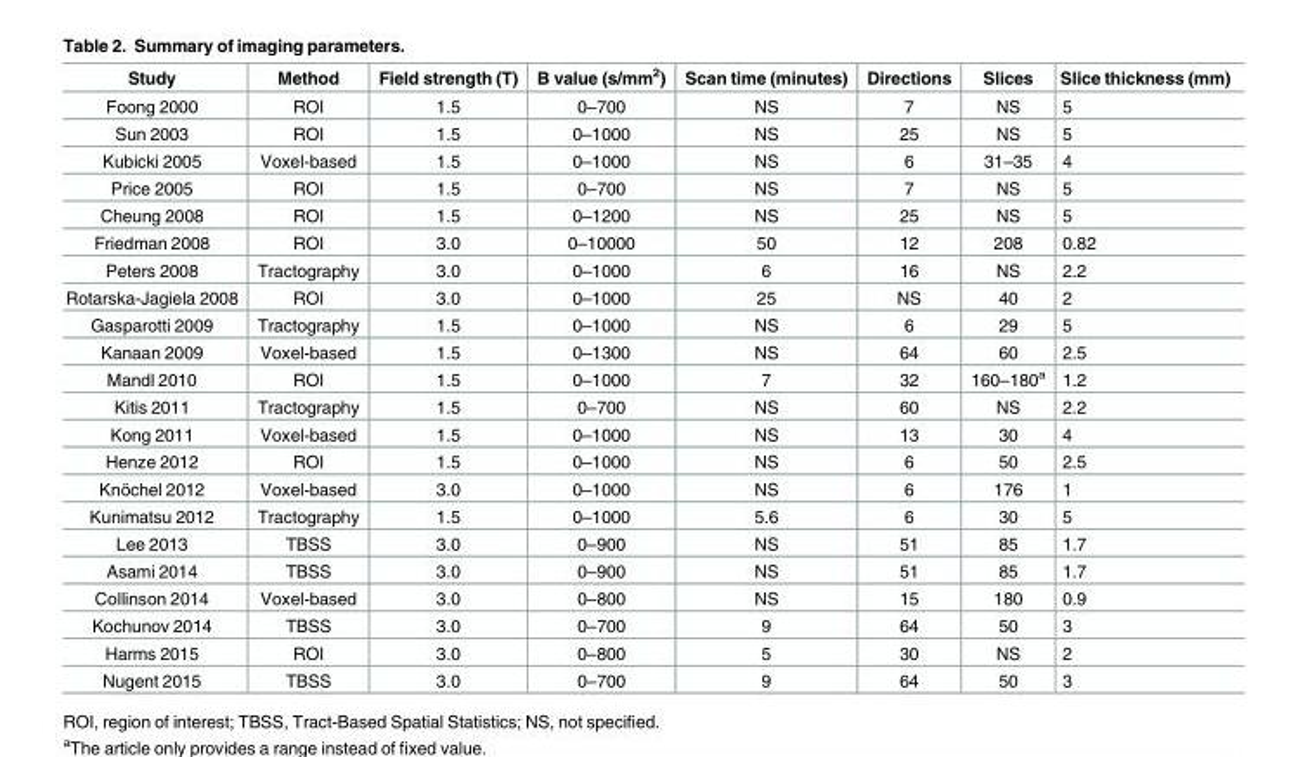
<table><thead><tr><td>Study</td><td>Method</td><td>Field strength (T)</td><td>B value (s/mm<sup>2</sup>)</td><td>Scan time (minutes)</td><td>Directions</td><td>Slices</td><td>Slice thickness (mm)</td></tr></thead><tbody><tr><td>Foong 2000</td><td>ROI</td><td>1.5</td><td>0–700</td><td>NS</td><td>7</td><td>NS</td><td>5</td></tr><tr><td>Sun 2003</td><td>ROI</td><td>1.5</td><td>0–1000</td><td>NS</td><td>25</td><td>NS</td><td>5</td></tr><tr><td>Kubicki 2005</td><td>Voxel-based</td><td>1.5</td><td>0–1000</td><td>NS</td><td>6</td><td>31–35</td><td>4</td></tr><tr><td>Price 2005</td><td>ROI</td><td>1.5</td><td>0–700</td><td>NS</td><td>7</td><td>NS</td><td>5</td></tr><tr><td>Cheung 2008</td><td>ROI</td><td>1.5</td><td>0–1200</td><td>NS</td><td>25</td><td>NS</td><td>5</td></tr><tr><td>Friedman 2008</td><td>ROI</td><td>3.0</td><td>0–10000</td><td>50</td><td>12</td><td>208</td><td>0.82</td></tr><tr><td>Peters 2008</td><td>Tractography</td><td>3.0</td><td>0–1000</td><td>6</td><td>16</td><td>NS</td><td>2.2</td></tr><tr><td>Rotarska-Jagiela 2008</td><td>ROI</td><td>3.0</td><td>0–1000</td><td>25</td><td>NS</td><td>40</td><td>2</td></tr><tr><td>Gasparotti 2009</td><td>Tractography</td><td>1.5</td><td>0–1000</td><td>NS</td><td>6</td><td>29</td><td>5</td></tr><tr><td>Kanaan 2009</td><td>Voxel-based</td><td>1.5</td><td>0–1300</td><td>NS</td><td>64</td><td>60</td><td>2.5</td></tr><tr><td>Mandl 2010</td><td>ROI</td><td>1.5</td><td>0–1000</td><td>7</td><td>32</td><td>160–180<sup>a</sup></td><td>1.2</td></tr><tr><td>Kitis 2011</td><td>Tractography</td><td>1.5</td><td>0–700</td><td>NS</td><td>60</td><td>NS</td><td>2.2</td></tr><tr><td>Kong 2011</td><td>Voxel-based</td><td>1.5</td><td>0–1000</td><td>NS</td><td>13</td><td>30</td><td>4</td></tr><tr><td>Henze 2012</td><td>ROI</td><td>1.5</td><td>0–1000</td><td>NS</td><td>6</td><td>50</td><td>2.5</td></tr><tr><td>Knöchel 2012</td><td>Voxel-based</td><td>3.0</td><td>0–1000</td><td>NS</td><td>6</td><td>176</td><td>1</td></tr><tr><td>Kunimatsu 2012</td><td>Tractography</td><td>1.5</td><td>0–1000</td><td>5.6</td><td>6</td><td>30</td><td>5</td></tr><tr><td>Lee 2013</td><td>TBSS</td><td>3.0</td><td>0–900</td><td>NS</td><td>51</td><td>85</td><td>1.7</td></tr><tr><td>Asami 2014</td><td>TBSS</td><td>3.0</td><td>0–900</td><td>NS</td><td>51</td><td>85</td><td>1.7</td></tr><tr><td>Collinson 2014</td><td>Voxel-based</td><td>3.0</td><td>0–800</td><td>NS</td><td>15</td><td>180</td><td>0.9</td></tr><tr><td>Kochunov 2014</td><td>TBSS</td><td>3.0</td><td>0–700</td><td>9</td><td>64</td><td>50</td><td>3</td></tr><tr><td>Harms 2015</td><td>ROI</td><td>3.0</td><td>0–800</td><td>5</td><td>30</td><td>NS</td><td>2</td></tr><tr><td>Nugent 2015</td><td>TBSS</td><td>3.0</td><td>0–700</td><td>9</td><td>64</td><td>50</td><td>3</td></tr></tbody></table>